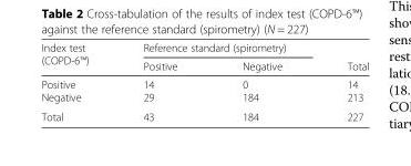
<table><thead><tr><td rowspan="2">Index test (COPD-6™)</td><td colspan="2">Reference standard (spirometry)</td><td rowspan="2">Total</td></tr><tr><td>Positive</td><td>Negative</td></tr></thead><tbody><tr><td>Positive Negative</td><td>14 29</td><td>0 184</td><td>14 213</td></tr><tr><td>Total</td><td>43</td><td>184</td><td>227</td></tr></tbody></table>